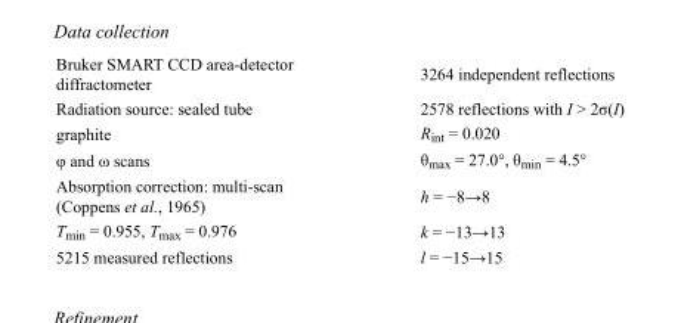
<table><tbody><tr><td>Bruker SMART CCD area-detector diffractometer</td><td>3264 independent reflections</td></tr><tr><td>Radiation source: sealed tube</td><td>2578 reflections with I &gt; 2σ(I)</td></tr><tr><td>graphite</td><td>R<sub>int</sub> = 0.020</td></tr><tr><td>φ and ω scans</td><td>θ<sub>max</sub> = 27.0°, θ<sub>min</sub> = 4.5°</td></tr><tr><td>Absorption correction: multi-scan (Coppens et al., 1965)</td><td>h = −8→8</td></tr><tr><td>T<sub>min</sub> = 0.955, T<sub>max</sub> = 0.976</td><td>k = −13→13</td></tr><tr><td>5215 measured reflections</td><td>l = −15→15</td></tr></tbody></table>